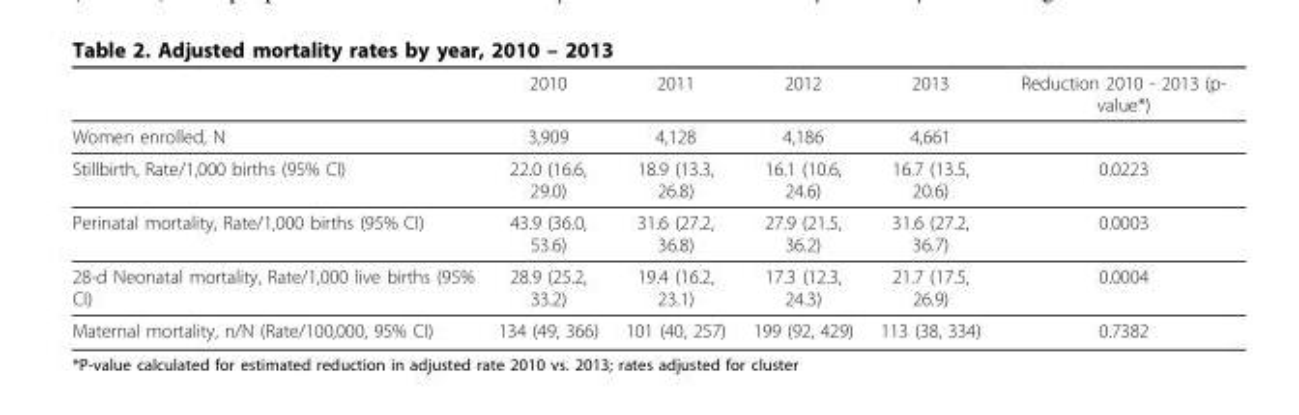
<table><thead><tr><td></td><td>2010</td><td>2011</td><td>2012</td><td>2013</td><td>Reduction 2010 - 2013 (p- value*)</td></tr></thead><tbody><tr><td>Women enrolled, N</td><td>3,909</td><td>4,128</td><td>4,186</td><td>4,661</td><td></td></tr><tr><td>Stillbirth, Rate/1,000 births (95% CI)</td><td>22.0 (16.6, 29.0)</td><td>18.9 (13.3, 26.8)</td><td>16.1 (10.6, 24.6)</td><td>16.7 (13.5, 20.6)</td><td>0.0223</td></tr><tr><td>Perinatal mortality, Rate/1,000 births (95% CI)</td><td>43.9 (36.0, 53.6)</td><td>31.6 (27.2, 36.8)</td><td>27.9 (21.5, 36.2)</td><td>31.6 (27.2, 36.7)</td><td>0.0003</td></tr><tr><td>28-d Neonatal mortality, Rate/1,000 live births (95% CI)</td><td>28.9 (25.2, 33.2)</td><td>19.4 (16.2, 23.1)</td><td>17.3 (12.3, 24.3)</td><td>21.7 (17.5, 26.9)</td><td>0.0004</td></tr><tr><td>Maternal mortality, n/N (Rate/100,000, 95% CI)</td><td>134 (49, 366)</td><td>101 (40, 257)</td><td>199 (92, 429)</td><td>113 (38, 334)</td><td>0.7382</td></tr></tbody></table>